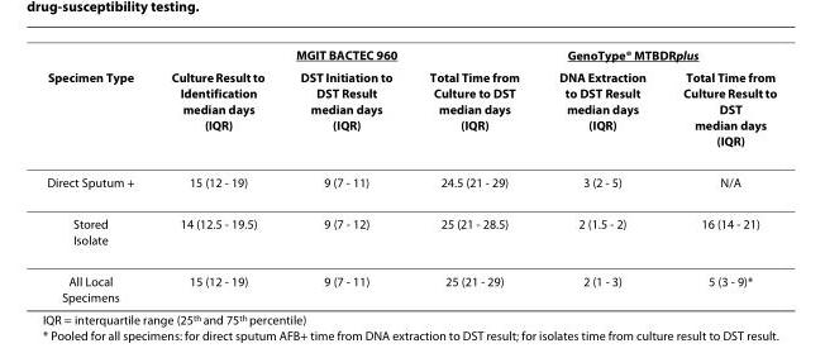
<table><thead><tr><td rowspan="2">Specimen Type</td><td colspan="3">MGIT BACTEC 960</td><td colspan="2">GenoType<sup>®</sup> MTBDRplus</td></tr><tr><td>Culture Result to Identification median days (IQR)</td><td>DST Initiation to DST Result median days (IQR)</td><td>Total Time from Culture to DST median days (IQR)</td><td>DNA Extraction to DST Result median days (IQR)</td><td>Total Time from Culture Result to DST median days (IQR)</td></tr></thead><tbody><tr><td>Direct Sputum +</td><td>15 (12 - 19)</td><td>9 (7 - 11)</td><td>24.5 (21 - 29)</td><td>3 (2 - 5)</td><td>N/A</td></tr><tr><td>Stored Isolate</td><td>14 (12.5 - 19.5)</td><td>9 (7 - 12)</td><td>25 (21 - 28.5)</td><td>2 (1.5 - 2)</td><td>16 (14 - 21)</td></tr><tr><td>All Local Specimens</td><td>15 (12 - 19)</td><td>9 (7 - 11)</td><td>25 (21 - 29)</td><td>2 (1 - 3)</td><td>5 (3 - 9)*</td></tr></tbody></table>